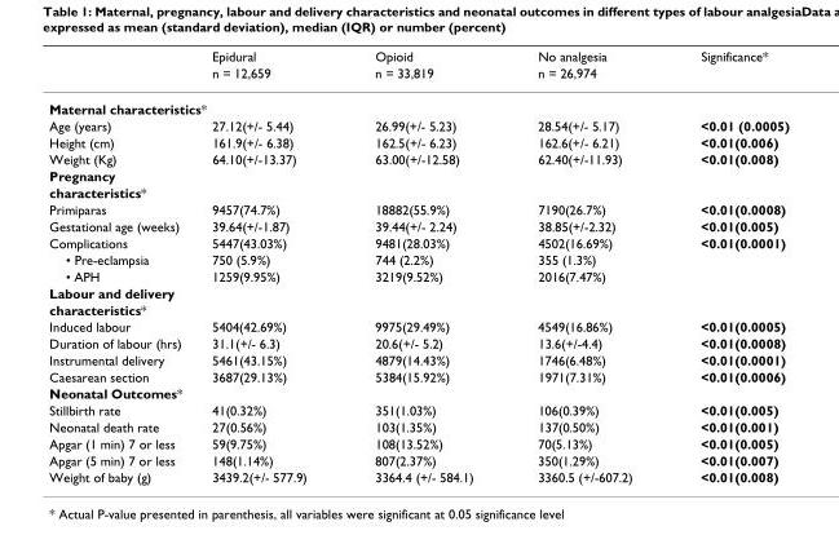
<table><thead><tr><td rowspan="2"></td><td rowspan="2">Epidural n = 12,659</td><td rowspan="2">Opioid n = 33,819</td><td rowspan="2">No analgesia n = 26,974</td><td rowspan="2">Significance*</td></tr><tr></tr></thead><tbody><tr><td colspan="5">Maternal characteristics*</td></tr><tr><td>Age (years)</td><td>27.12(+/- 5.44)</td><td>26.99(+/- 5.23)</td><td>28.54(+/- 5.17)</td><td>&lt;0.01 (0.0005)</td></tr><tr><td>Height (cm)</td><td>161.9(+/- 6.38)</td><td>162.5(+/- 6.23)</td><td>162.6(+/- 6.21)</td><td>&lt;0.01(0.006)</td></tr><tr><td>Weight (Kg)</td><td>64.10(+/-13.37)</td><td>63.00(+/-12.58)</td><td>62.40(+/-11.93)</td><td>&lt;0.01(0.008)</td></tr><tr><td colspan="5">Pregnancy</td></tr><tr><td colspan="5">characteristics*</td></tr><tr><td>Primiparas</td><td>9457(74.7%)</td><td>18882(55.9%)</td><td>7190(26.7%)</td><td>&lt;0.01(0.0008)</td></tr><tr><td>Gestational age (weeks)</td><td>39.64(+/-1.87)</td><td>39.44(+/- 2.24)</td><td>38.85(+/-2.32)</td><td>&lt;0.01(0.005)</td></tr><tr><td>Complications</td><td>5447(43.03%)</td><td>9481(28.03%)</td><td>4502(16.69%)</td><td>&lt;0.01(0.0001)</td></tr><tr><td>• Pre-eclampsia</td><td>750 (5.9%)</td><td>744 (2.2%)</td><td>355 (1.3%)</td><td></td></tr><tr><td>• APH</td><td>1259(9.95%)</td><td>3219(9.52%)</td><td>2016(7.47%)</td><td></td></tr><tr><td colspan="5">Labour and delivery</td></tr><tr><td colspan="5">characteristics*</td></tr><tr><td>Induced labour</td><td>5404(42.69%)</td><td>9975(29.49%)</td><td>4549(16.86%)</td><td>&lt;0.01(0.0005)</td></tr><tr><td>Duration of labour (hrs)</td><td>31.1(+/- 6.3)</td><td>20.6(+/- 5.2)</td><td>13.6(+/-4.4)</td><td>&lt;0.01(0.0008)</td></tr><tr><td>Instrumental delivery</td><td>5461(43.15%)</td><td>4879(14.43%)</td><td>1746(6.48%)</td><td>&lt;0.01(0.0001)</td></tr><tr><td>Caesarean section</td><td>3687(29.13%)</td><td>5384(15.92%)</td><td>1971(7.31%)</td><td>&lt;0.01(0.0006)</td></tr><tr><td colspan="5">Neonatal Outcomes*</td></tr><tr><td>Stillbirth rate</td><td>41(0.32%)</td><td>351(1.03%)</td><td>106(0.39%)</td><td>&lt;0.01(0.005)</td></tr><tr><td>Neonatal death rate</td><td>27(0.56%)</td><td>103(1.35%)</td><td>137(0.50%)</td><td>&lt;0.01(0.001)</td></tr><tr><td>Apgar (1 min) 7 or less</td><td>59(9.75%)</td><td>108(13.52%)</td><td>70(5.13%)</td><td>&lt;0.01(0.005)</td></tr><tr><td>Apgar (5 min) 7 or less</td><td>148(1.14%)</td><td>807(2.37%)</td><td>350(1.29%)</td><td>&lt;0.01(0.007)</td></tr><tr><td>Weight of baby (g)</td><td>3439.2(+/- 577.9)</td><td>3364.4 (+/- 584.1)</td><td>3360.5 (+/-607.2)</td><td>&lt;0.01(0.008)</td></tr></tbody></table>